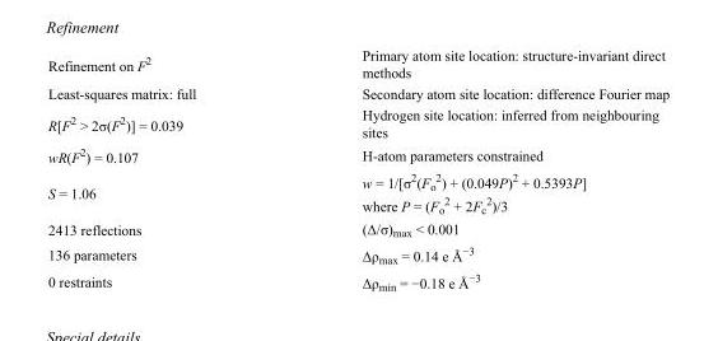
<table><tbody><tr><td>Refinement on F<sup>2</sup></td><td>Primary atom site location: structure-invariant direct methods</td></tr><tr><td>Least-squares matrix: full</td><td>Secondary atom site location: difference Fourier map</td></tr><tr><td>R[F<sup>2</sup> &gt; 2σ(F<sup>2</sup>)] = 0.039</td><td>Hydrogen site location: inferred from neighbouring sites</td></tr><tr><td>wR(F<sup>2</sup>) = 0.107</td><td>H-atom parameters constrained</td></tr><tr><td>S = 1.06</td><td>w = 1/[σ<sup>2</sup>(F<sub>o</sub> <sup>2</sup>) + (0.049P)<sup>2</sup> + 0.5393P] where P = (F<sub>o</sub> <sup>2</sup> + 2F<sub>c</sub> <sup>2</sup>)/3</td></tr><tr><td>2413 reflections</td><td>(Δ/σ)<sub>max</sub> &lt; 0.001</td></tr><tr><td>136 parameters</td><td>Δρ<sub>max</sub> = 0.14 e Å<sup>−3</sup></td></tr><tr><td>0 restraints</td><td>Δρ<sub>min</sub> = −0.18 e Å<sup>−3</sup></td></tr></tbody></table>